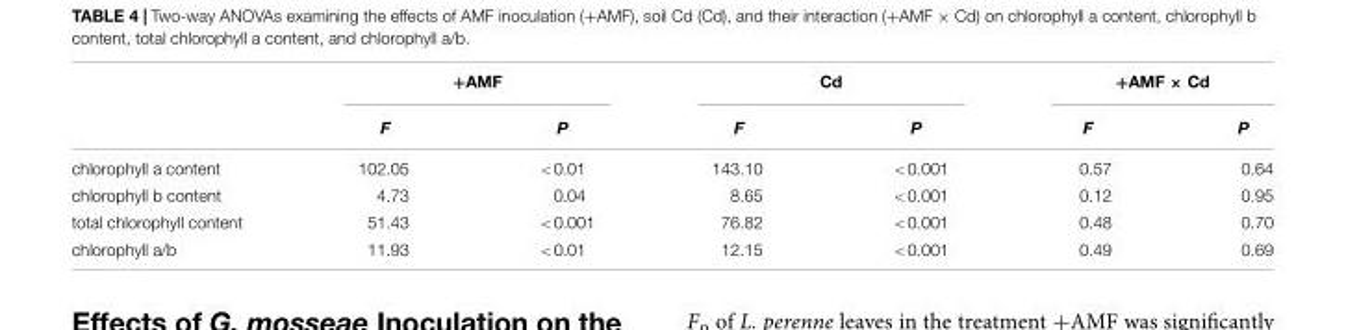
<table><thead><tr><td rowspan="2"></td><td colspan="2">+AMF</td><td colspan="2">Cd</td><td colspan="2">+AMF × Cd</td></tr><tr><td>F</td><td>P</td><td>F</td><td>P</td><td>F</td><td>P</td></tr></thead><tbody><tr><td>chlorophyll a content</td><td>102.05</td><td>&lt;0.01</td><td>143.10</td><td>&lt;0.001</td><td>0.57</td><td>0.64</td></tr><tr><td>chlorophyll b content</td><td>4.73</td><td>0.04</td><td>8.65</td><td>&lt;0.001</td><td>0.12</td><td>0.95</td></tr><tr><td>total chlorophyll content</td><td>51.43</td><td>&lt;0.001</td><td>76.82</td><td>&lt;0.001</td><td>0.48</td><td>0.70</td></tr><tr><td>chlorophyll a/b</td><td>11.93</td><td>&lt;0.01</td><td>12.15</td><td>&lt;0.001</td><td>0.49</td><td>0.69</td></tr></tbody></table>